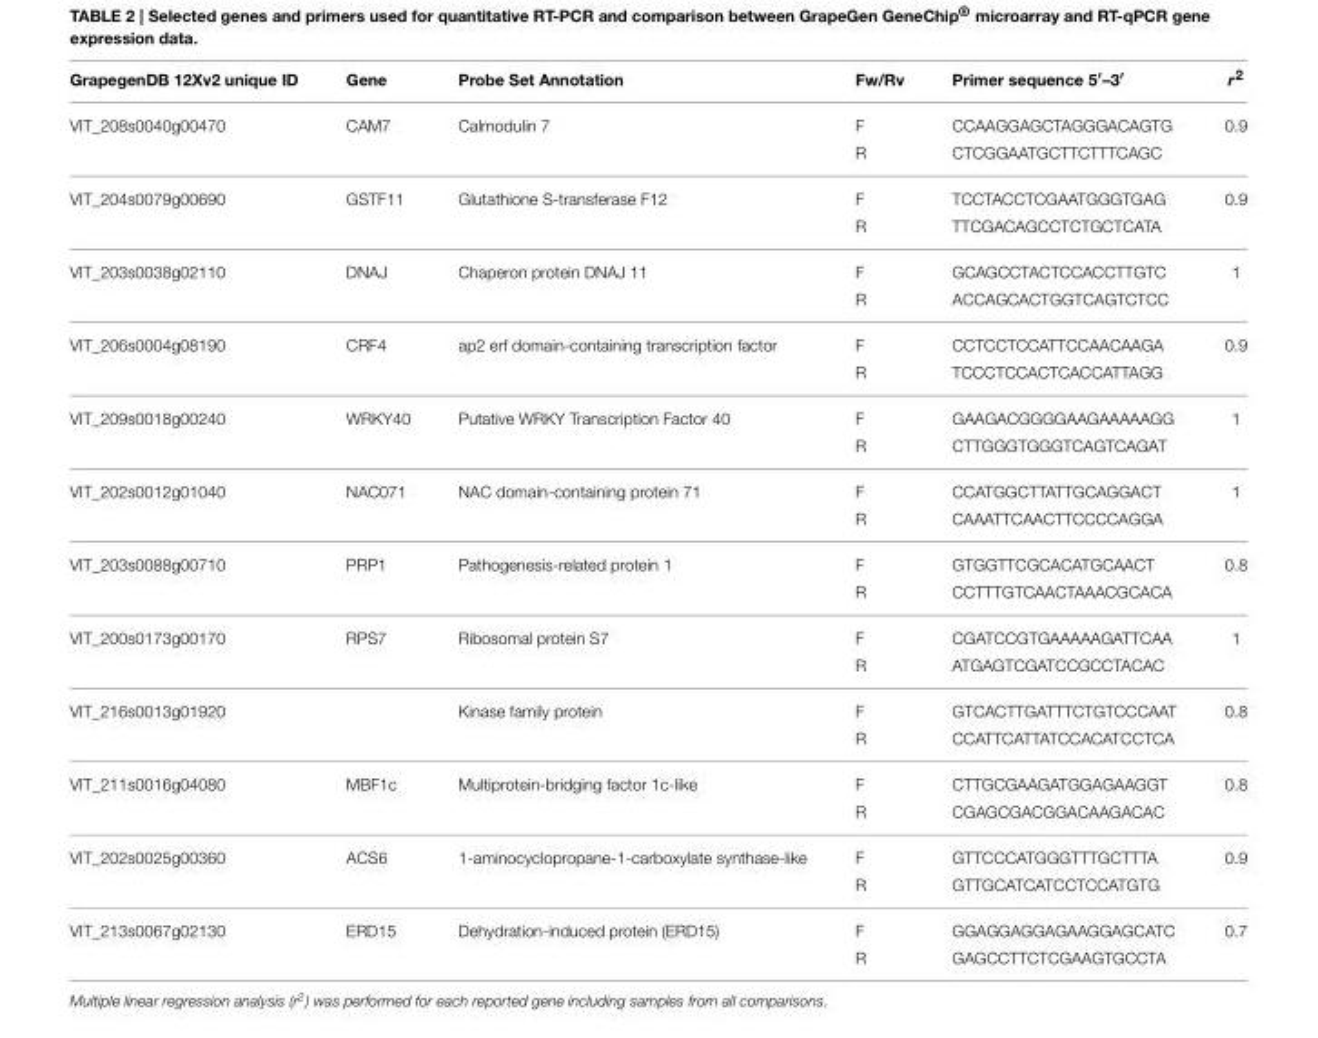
<table><thead><tr><td>GrapegenDB 12Xv2 unique ID</td><td>Gene</td><td>Probe Set Annotation</td><td>Fw/Rv</td><td>Primer sequence 5′–3′</td><td>r<sup>2</sup></td></tr></thead><tbody><tr><td rowspan="2">VIT_208s0040g00470</td><td>CAM7</td><td>Calmodulin 7</td><td>F</td><td>CCAAGGAGCTAGGGACAGTG</td><td>0.9</td></tr><tr><td></td><td></td><td>R</td><td>CTCGGAATGCTTCTTTCAGC</td><td></td></tr><tr><td rowspan="2">VIT_204s0079g00690</td><td>GSTF11</td><td>Glutathione S-transferase F12</td><td>F</td><td>TCCTACCTCGAATGGGTGAG</td><td>0.9</td></tr><tr><td></td><td></td><td>R</td><td>TTCGACAGCCTCTGCTCATA</td><td></td></tr><tr><td rowspan="2">VIT_203s0038g02110</td><td>DNAJ</td><td>Chaperon protein DNAJ 11</td><td>F</td><td>GCAGCCTACTCCACCTTGTC</td><td>1</td></tr><tr><td></td><td></td><td>R</td><td>ACCAGCACTGGTCAGTCTCC</td><td></td></tr><tr><td rowspan="2">VIT_206s0004g08190</td><td>CRF4</td><td>ap2 erf domain-containing transcription factor</td><td>F</td><td>CCTCCTCCATTCCAACAAGA</td><td>0.9</td></tr><tr><td></td><td></td><td>R</td><td>TCCCTCCACTCACCATTAGG</td><td></td></tr><tr><td rowspan="2">VIT_209s0018g00240</td><td>WRKY40</td><td>Putative WRKY Transcription Factor 40</td><td>F</td><td>GAAGACGGGGAAGAAAAAGG</td><td>1</td></tr><tr><td></td><td></td><td>R</td><td>CTTGGGTGGGTCAGTCAGAT</td><td></td></tr><tr><td rowspan="2">VIT_202s0012g01040</td><td>NAC071</td><td>NAC domain-containing protein 71</td><td>F</td><td>CCATGGCTTATTGCAGGACT</td><td>1</td></tr><tr><td></td><td></td><td>R</td><td>CAAATTCAACTTCCCCAGGA</td><td></td></tr><tr><td rowspan="2">VIT_203s0088g00710</td><td>PRP1</td><td>Pathogenesis-related protein 1</td><td>F</td><td>GTGGTTCGCACATGCAACT</td><td>0.8</td></tr><tr><td></td><td></td><td>R</td><td>CCTTTGTCAACTAAACGCACA</td><td></td></tr><tr><td rowspan="2">VIT_200s0173g00170</td><td>RPS7</td><td>Ribosomal protein S7</td><td>F</td><td>CGATCCGTGAAAAAGATTCAA</td><td>1</td></tr><tr><td></td><td></td><td>R</td><td>ATGAGTCGATCCGCCTACAC</td><td></td></tr><tr><td rowspan="2">VIT_216s0013g01920</td><td></td><td>Kinase family protein</td><td>F</td><td>GTCACTTGATTTCTGTCCCAAT</td><td>0.8</td></tr><tr><td></td><td></td><td>R</td><td>CCATTCATTATCCACATCCTCA</td><td></td></tr><tr><td rowspan="2">VIT_211s0016g04080</td><td>MBF1c</td><td>Multiprotein-bridging factor 1c-like</td><td>F</td><td>CTTGCGAAGATGGAGAAGGT</td><td>0.8</td></tr><tr><td></td><td></td><td>R</td><td>CGAGCGACGGACAAGACAC</td><td></td></tr><tr><td rowspan="2">VIT_202s0025g00360</td><td>ACS6</td><td>1-aminocyclopropane-1-carboxylate synthase-like</td><td>F</td><td>GTTCCCATGGGTTTGCTTTA</td><td>0.9</td></tr><tr><td></td><td></td><td>R</td><td>GTTGCATCATCCTCCATGTG</td><td></td></tr><tr><td rowspan="2">VIT_213s0067g02130</td><td>ERD15</td><td>Dehydration-induced protein (ERD15)</td><td>F</td><td>GGAGGAGGAGAAGGAGCATC</td><td>0.7</td></tr><tr><td></td><td></td><td>R</td><td>GAGCCTTCTCGAAGTGCCTA</td><td></td></tr></tbody></table>